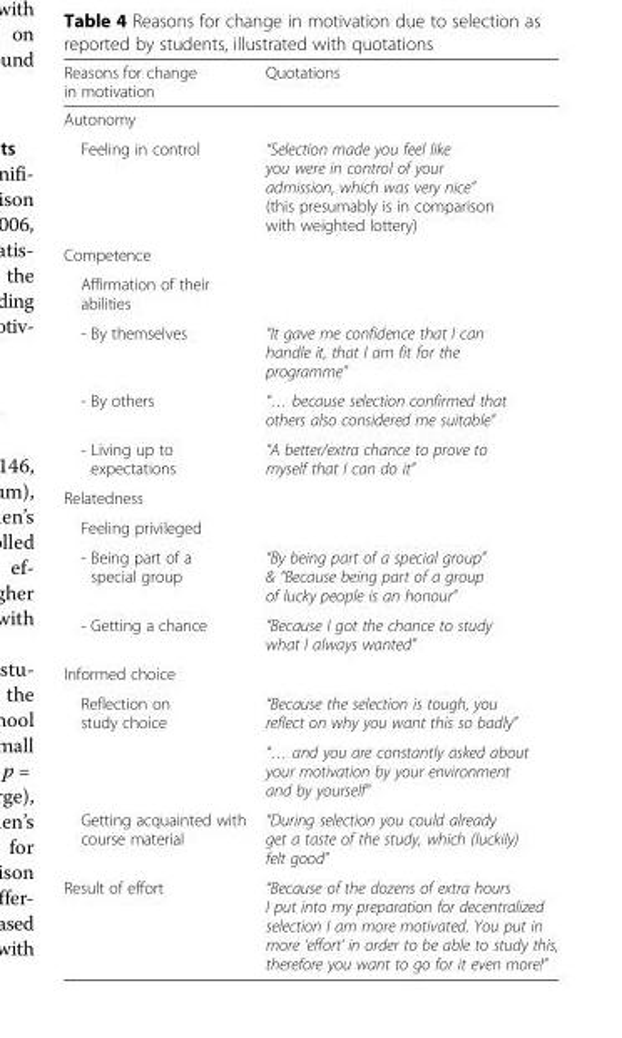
<table><thead><tr><td>Reasons for change in motivation</td><td>Quotations</td></tr></thead><tbody><tr><td colspan="2">Autonomy</td></tr><tr><td>Feeling in control</td><td>“Selection made you feel like you were in control of your admission, which was very nice” (this presumably is in comparison with weighted lottery)</td></tr><tr><td colspan="2">Competence</td></tr><tr><td colspan="2">Affirmation of their abilities</td></tr><tr><td>- By themselves</td><td>“It gave me confidence that I can handle it, that I am fit for the programme”</td></tr><tr><td>- By others</td><td>“… because selection confirmed that others also considered me suitable”</td></tr><tr><td>- Living up to expectations</td><td>“A better/extra chance to prove to myself that I can do it”</td></tr><tr><td colspan="2">Relatedness</td></tr><tr><td colspan="2">Feeling privileged</td></tr><tr><td>- Being part of a special group</td><td>“By being part of a special group” &amp; “Because being part of a group of lucky people is an honour”</td></tr><tr><td>- Getting a chance</td><td>“Because I got the chance to study what I always wanted”</td></tr><tr><td colspan="2">Informed choice</td></tr><tr><td rowspan="2">Reflection on study choice</td><td>“Because the selection is tough, you reflect on why you want this so badly”</td></tr><tr><td>“… and you are constantly asked about your motivation by your environment and by yourself”</td></tr><tr><td>Getting acquainted with course material</td><td>“During selection you could already get a taste of the study, which (luckily) felt good”</td></tr><tr><td>Result of effort</td><td>“Because of the dozens of extra hours I put into my preparation for decentralized selection I am more motivated. You put in more ‘effort’ in order to be able to study this, therefore you want to go for it even more!”</td></tr></tbody></table>